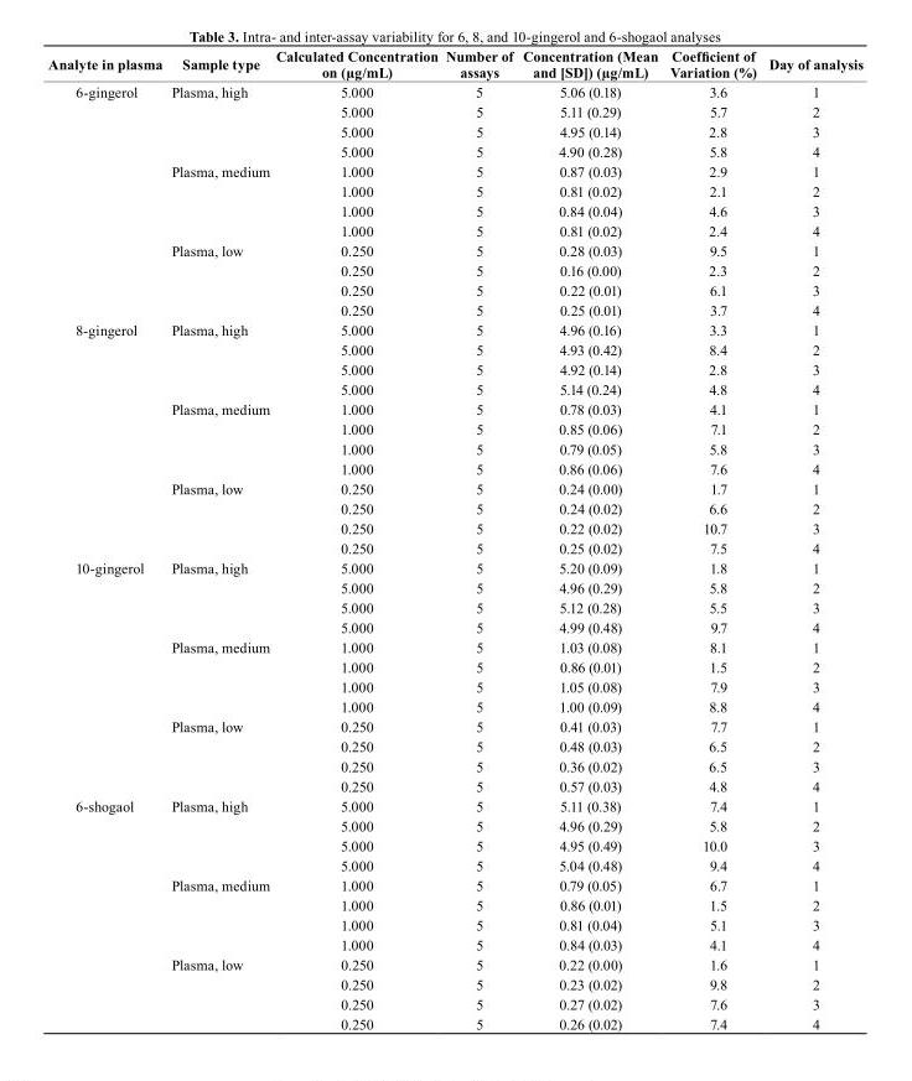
<table><thead><tr><td>Analyte in plasma</td><td>sample type</td><td>calculated concentration on (µg/mL)</td><td>number of assays</td><td>concentration (mean and [sd]) (µg/mL)</td><td>Coefficient of Variation (%)</td><td>day of analysis</td></tr></thead><tbody><tr><td rowspan="12">6-gingerol</td><td>Plasma, high</td><td>5.000</td><td>5</td><td>5.06 (0.18)</td><td>3.6</td><td>1</td></tr><tr><td></td><td>5.000</td><td>5</td><td>5.11 (0.29)</td><td>5.7</td><td>2</td></tr><tr><td></td><td>5.000</td><td>5</td><td>4.95 (0.14)</td><td>2.8</td><td>3</td></tr><tr><td></td><td>5.000</td><td>5</td><td>4.90 (0.28)</td><td>5.8</td><td>4</td></tr><tr><td>Plasma, medium</td><td>1.000</td><td>5</td><td>0.87 (0.03)</td><td>2.9</td><td>1</td></tr><tr><td></td><td>1.000</td><td>5</td><td>0.81 (0.02)</td><td>2.1</td><td>2</td></tr><tr><td></td><td>1.000</td><td>5</td><td>0.84 (0.04)</td><td>4.6</td><td>3</td></tr><tr><td></td><td>1.000</td><td>5</td><td>0.81 (0.02)</td><td>2.4</td><td>4</td></tr><tr><td>Plasma, low</td><td>0.250</td><td>5</td><td>0.28 (0.03)</td><td>9.5</td><td>1</td></tr><tr><td></td><td>0.250</td><td>5</td><td>0.16 (0.00)</td><td>2.3</td><td>2</td></tr><tr><td></td><td>0.250</td><td>5</td><td>0.22 (0.01)</td><td>6.1</td><td>3</td></tr><tr><td></td><td>0.250</td><td>5</td><td>0.25 (0.01)</td><td>3.7</td><td>4</td></tr><tr><td rowspan="12">8-gingerol</td><td>Plasma, high</td><td>5.000</td><td>5</td><td>4.96 (0.16)</td><td>3.3</td><td>1</td></tr><tr><td></td><td>5.000</td><td>5</td><td>4.93 (0.42)</td><td>8.4</td><td>2</td></tr><tr><td></td><td>5.000</td><td>5</td><td>4.92 (0.14)</td><td>2.8</td><td>3</td></tr><tr><td></td><td>5.000</td><td>5</td><td>5.14 (0.24)</td><td>4.8</td><td>4</td></tr><tr><td>Plasma, medium</td><td>1.000</td><td>5</td><td>0.78 (0.03)</td><td>4.1</td><td>1</td></tr><tr><td></td><td>1.000</td><td>5</td><td>0.85 (0.06)</td><td>7.1</td><td>2</td></tr><tr><td></td><td>1.000</td><td>5</td><td>0.79 (0.05)</td><td>5.8</td><td>3</td></tr><tr><td></td><td>1.000</td><td>5</td><td>0.86 (0.06)</td><td>7.6</td><td>4</td></tr><tr><td>Plasma, low</td><td>0.250</td><td>5</td><td>0.24 (0.00)</td><td>1.7</td><td>1</td></tr><tr><td></td><td>0.250</td><td>5</td><td>0.24 (0.02)</td><td>6.6</td><td>2</td></tr><tr><td></td><td>0.250</td><td>5</td><td>0.22 (0.02)</td><td>10.7</td><td>3</td></tr><tr><td></td><td>0.250</td><td>5</td><td>0.25 (0.02)</td><td>7.5</td><td>4</td></tr><tr><td rowspan="12">10-gingerol</td><td>Plasma, high</td><td>5.000</td><td>5</td><td>5.20 (0.09)</td><td>1.8</td><td>1</td></tr><tr><td></td><td>5.000</td><td>5</td><td>4.96 (0.29)</td><td>5.8</td><td>2</td></tr><tr><td></td><td>5.000</td><td>5</td><td>5.12 (0.28)</td><td>5.5</td><td>3</td></tr><tr><td></td><td>5.000</td><td>5</td><td>4.99 (0.48)</td><td>9.7</td><td>4</td></tr><tr><td>Plasma, medium</td><td>1.000</td><td>5</td><td>1.03 (0.08)</td><td>8.1</td><td>1</td></tr><tr><td></td><td>1.000</td><td>5</td><td>0.86 (0.01)</td><td>1.5</td><td>2</td></tr><tr><td></td><td>1.000</td><td>5</td><td>1.05 (0.08)</td><td>7.9</td><td>3</td></tr><tr><td></td><td>1.000</td><td>5</td><td>1.00 (0.09)</td><td>8.8</td><td>4</td></tr><tr><td>Plasma, low</td><td>0.250</td><td>5</td><td>0.41 (0.03)</td><td>7.7</td><td>1</td></tr><tr><td></td><td>0.250</td><td>5</td><td>0.48 (0.03)</td><td>6.5</td><td>2</td></tr><tr><td></td><td>0.250</td><td>5</td><td>0.36 (0.02)</td><td>6.5</td><td>3</td></tr><tr><td></td><td>0.250</td><td>5</td><td>0.57 (0.03)</td><td>4.8</td><td>4</td></tr><tr><td rowspan="12">6-shogaol</td><td>Plasma, high</td><td>5.000</td><td>5</td><td>5.11 (0.38)</td><td>7.4</td><td>1</td></tr><tr><td></td><td>5.000</td><td>5</td><td>4.96 (0.29)</td><td>5.8</td><td>2</td></tr><tr><td></td><td>5.000</td><td>5</td><td>4.95 (0.49)</td><td>10.0</td><td>3</td></tr><tr><td></td><td>5.000</td><td>5</td><td>5.04 (0.48)</td><td>9.4</td><td>4</td></tr><tr><td>Plasma, medium</td><td>1.000</td><td>5</td><td>0.79 (0.05)</td><td>6.7</td><td>1</td></tr><tr><td></td><td>1.000</td><td>5</td><td>0.86 (0.01)</td><td>1.5</td><td>2</td></tr><tr><td></td><td>1.000</td><td>5</td><td>0.81 (0.04)</td><td>5.1</td><td>3</td></tr><tr><td></td><td>1.000</td><td>5</td><td>0.84 (0.03)</td><td>4.1</td><td>4</td></tr><tr><td>Plasma, low</td><td>0.250</td><td>5</td><td>0.22 (0.00)</td><td>1.6</td><td>1</td></tr><tr><td></td><td>0.250</td><td>5</td><td>0.23 (0.02)</td><td>9.8</td><td>2</td></tr><tr><td></td><td>0.250</td><td>5</td><td>0.27 (0.02)</td><td>7.6</td><td>3</td></tr><tr><td></td><td>0.250</td><td>5</td><td>0.26 (0.02)</td><td>7.4</td><td>4</td></tr></tbody></table>